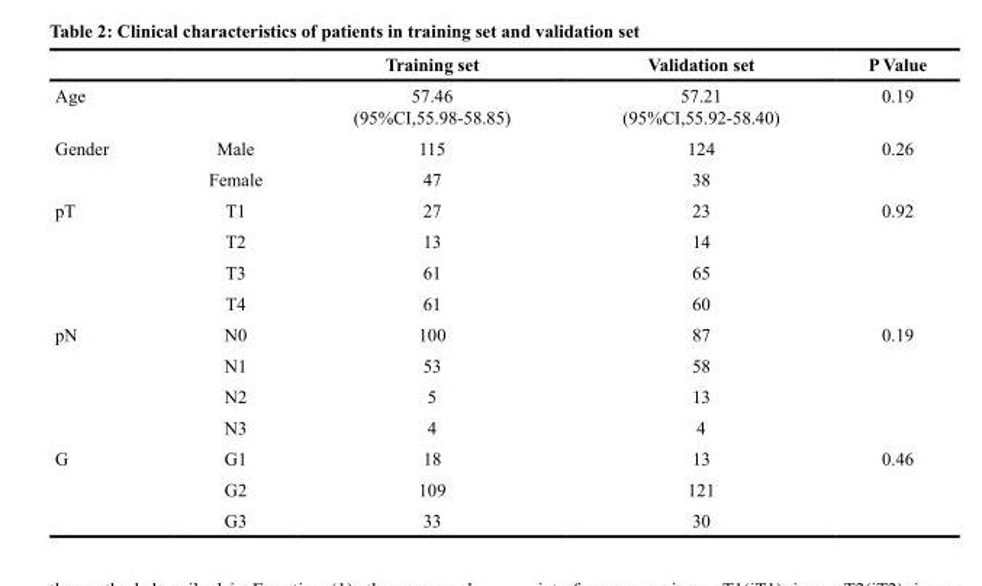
<table><thead><tr><td></td><td></td><td>Training set</td><td>Validation set</td><td>P Value</td></tr></thead><tbody><tr><td>Age</td><td></td><td>57.46 (95%CI,55.98-58.85)</td><td>57.21 (95%CI,55.92-58.40)</td><td>0.19</td></tr><tr><td rowspan="2">Gender</td><td>Male</td><td>115</td><td>124</td><td>0.26</td></tr><tr><td>Female</td><td>47</td><td>38</td><td></td></tr><tr><td rowspan="4">pT</td><td>T1</td><td>27</td><td>23</td><td>0.92</td></tr><tr><td>T2</td><td>13</td><td>14</td><td></td></tr><tr><td>T3</td><td>61</td><td>65</td><td></td></tr><tr><td>T4</td><td>61</td><td>60</td><td></td></tr><tr><td rowspan="4">pN</td><td>N0</td><td>100</td><td>87</td><td>0.19</td></tr><tr><td>N1</td><td>53</td><td>58</td><td></td></tr><tr><td>N2</td><td>5</td><td>13</td><td></td></tr><tr><td>N3</td><td>4</td><td>4</td><td></td></tr><tr><td rowspan="3">G</td><td>G1</td><td>18</td><td>13</td><td>0.46</td></tr><tr><td>G2</td><td>109</td><td>121</td><td></td></tr><tr><td>G3</td><td>33</td><td>30</td><td></td></tr></tbody></table>